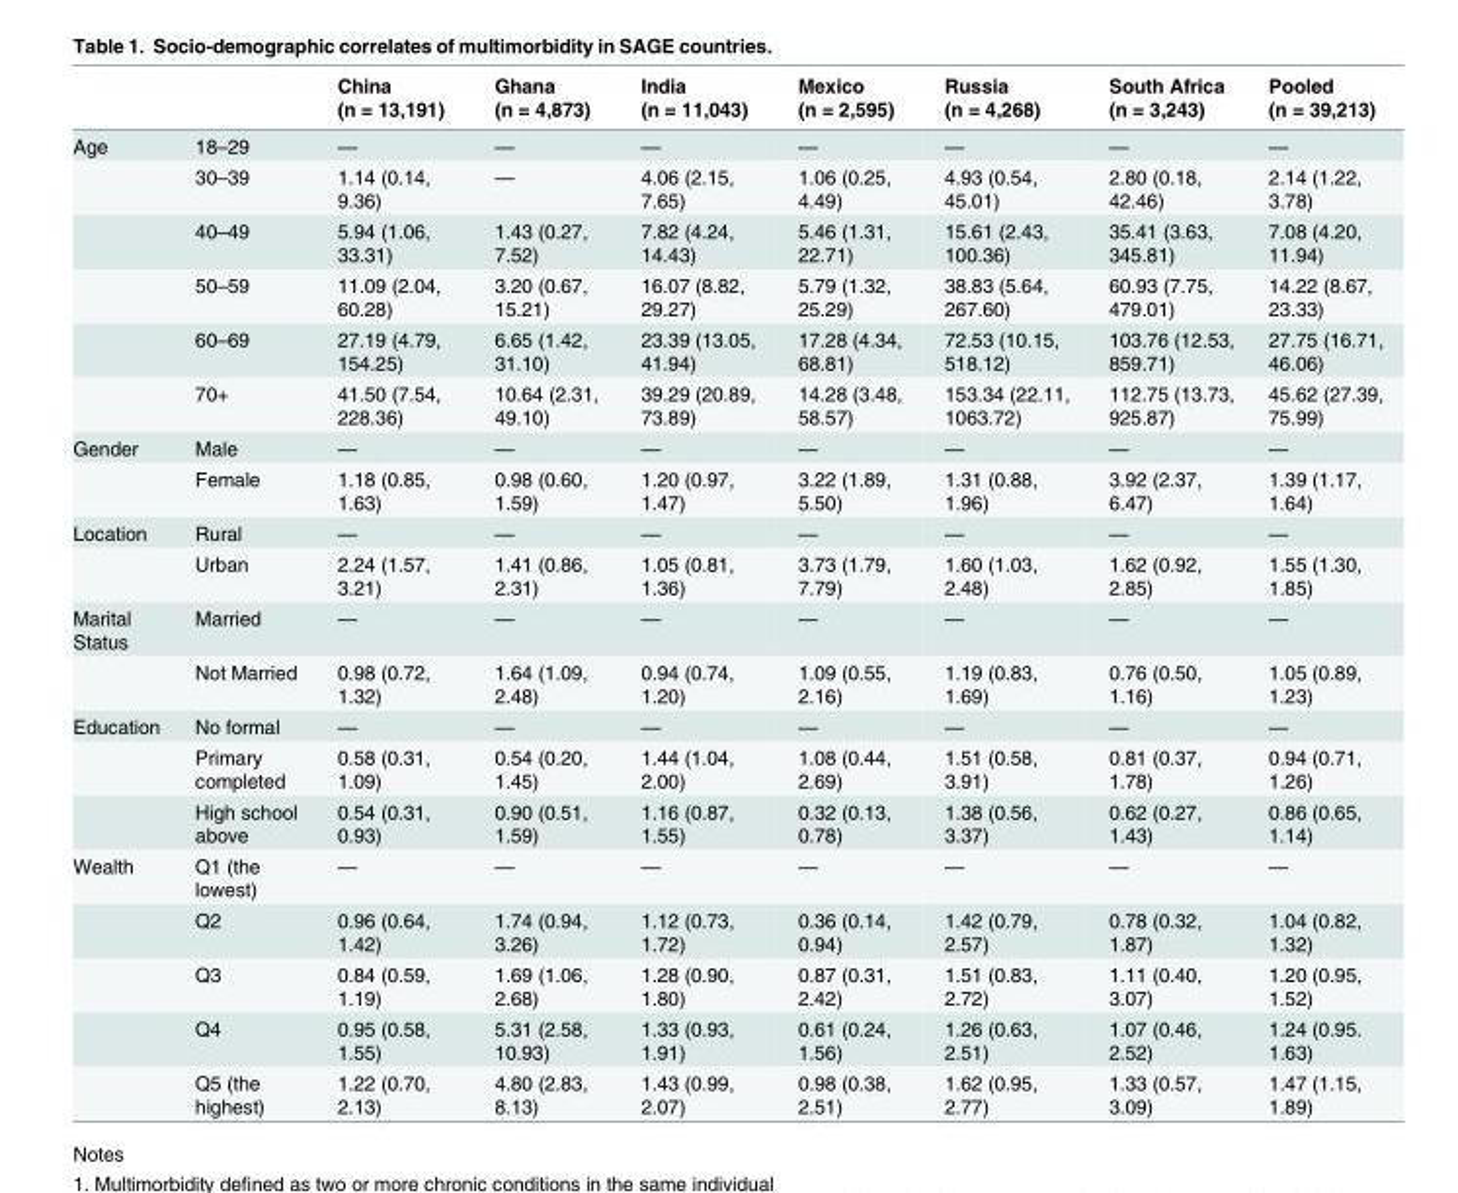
<table><thead><tr><td rowspan="2"></td><td rowspan="2"></td><td rowspan="2">China (n = 13,191)</td><td rowspan="2">Ghana (n = 4,873)</td><td rowspan="2">India (n = 11,043)</td><td rowspan="2">Mexico (n = 2,595)</td><td rowspan="2">Russia (n = 4,268)</td><td rowspan="2">South Africa (n = 3,243)</td><td rowspan="2">Pooled (n = 39,213)</td></tr><tr></tr></thead><tbody><tr><td rowspan="6">Age</td><td>18–29</td><td>—</td><td>—</td><td>—</td><td>—</td><td>—</td><td>—</td><td>—</td></tr><tr><td>30–39</td><td>1.14 (0.14, 9.36)</td><td>—</td><td>4.06 (2.15, 7.65)</td><td>1.06 (0.25, 4.49)</td><td>4.93 (0.54, 45.01)</td><td>2.80 (0.18, 42.46)</td><td>2.14 (1.22, 3.78)</td></tr><tr><td>40–49</td><td>5.94 (1.06, 33.31)</td><td>1.43 (0.27, 7.52)</td><td>7.82 (4.24, 14.43)</td><td>5.46 (1.31, 22.71)</td><td>15.61 (2.43, 100.36)</td><td>35.41 (3.63, 345.81)</td><td>7.08 (4.20, 11.94)</td></tr><tr><td>50–59</td><td>11.09 (2.04, 60.28)</td><td>3.20 (0.67, 15.21)</td><td>16.07 (8.82, 29.27)</td><td>5.79 (1.32, 25.29)</td><td>38.83 (5.64, 267.60)</td><td>60.93 (7.75, 479.01)</td><td>14.22 (8.67, 23.33)</td></tr><tr><td>60–69</td><td>27.19 (4.79, 154.25)</td><td>6.65 (1.42, 31.10)</td><td>23.39 (13.05, 41.94)</td><td>17.28 (4.34, 68.81)</td><td>72.53 (10.15, 518.12)</td><td>103.76 (12.53, 859.71)</td><td>27.75 (16.71, 46.06)</td></tr><tr><td>70+</td><td>41.50 (7.54, 228.36)</td><td>10.64 (2.31, 49.10)</td><td>39.29 (20.89, 73.89)</td><td>14.28 (3.48, 58.57)</td><td>153.34 (22.11, 1063.72)</td><td>112.75 (13.73, 925.87)</td><td>45.62 (27.39, 75.99)</td></tr><tr><td rowspan="2">Gender</td><td>Male</td><td>—</td><td>—</td><td>—</td><td>—</td><td>—</td><td>—</td><td>—</td></tr><tr><td>Female</td><td>1.18 (0.85, 1.63)</td><td>0.98 (0.60, 1.59)</td><td>1.20 (0.97, 1.47)</td><td>3.22 (1.89, 5.50)</td><td>1.31 (0.88, 1.96)</td><td>3.92 (2.37, 6.47)</td><td>1.39 (1.17, 1.64)</td></tr><tr><td rowspan="2">Location</td><td>Rural</td><td>—</td><td>—</td><td>—</td><td>—</td><td>—</td><td>—</td><td>—</td></tr><tr><td>Urban</td><td>2.24 (1.57, 3.21)</td><td>1.41 (0.86, 2.31)</td><td>1.05 (0.81, 1.36)</td><td>3.73 (1.79, 7.79)</td><td>1.60 (1.03, 2.48)</td><td>1.62 (0.92, 2.85)</td><td>1.55 (1.30, 1.85)</td></tr><tr><td rowspan="2">Marital Status</td><td>Married</td><td>—</td><td>—</td><td>—</td><td>—</td><td>—</td><td>—</td><td>—</td></tr><tr><td>Not Married</td><td>0.98 (0.72, 1.32)</td><td>1.64 (1.09, 2.48)</td><td>0.94 (0.74, 1.20)</td><td>1.09 (0.55, 2.16)</td><td>1.19 (0.83, 1.69)</td><td>0.76 (0.50, 1.16)</td><td>1.05 (0.89, 1.23)</td></tr><tr><td rowspan="3">Education</td><td>No formal</td><td>—</td><td>—</td><td>—</td><td>—</td><td>—</td><td>—</td><td>—</td></tr><tr><td>Primary completed</td><td>0.58 (0.31, 1.09)</td><td>0.54 (0.20, 1.45)</td><td>1.44 (1.04, 2.00)</td><td>1.08 (0.44, 2.69)</td><td>1.51 (0.58, 3.91)</td><td>0.81 (0.37, 1.78)</td><td>0.94 (0.71, 1.26)</td></tr><tr><td>High school above</td><td>0.54 (0.31, 0.93)</td><td>0.90 (0.51, 1.59)</td><td>1.16 (0.87, 1.55)</td><td>0.32 (0.13, 0.78)</td><td>1.38 (0.56, 3.37)</td><td>0.62 (0.27, 1.43)</td><td>0.86 (0.65, 1.14)</td></tr><tr><td rowspan="5">Wealth</td><td>Q1 (the lowest)</td><td>—</td><td>—</td><td>—</td><td>—</td><td>—</td><td>—</td><td>—</td></tr><tr><td>Q2</td><td>0.96 (0.64, 1.42)</td><td>1.74 (0.94, 3.26)</td><td>1.12 (0.73, 1.72)</td><td>0.36 (0.14, 0.94)</td><td>1.42 (0.79, 2.57)</td><td>0.78 (0.32, 1.87)</td><td>1.04 (0.82, 1.32)</td></tr><tr><td>Q3</td><td>0.84 (0.59, 1.19)</td><td>1.69 (1.06, 2.68)</td><td>1.28 (0.90, 1.80)</td><td>0.87 (0.31, 2.42)</td><td>1.51 (0.83, 2.72)</td><td>1.11 (0.40, 3.07)</td><td>1.20 (0.95, 1.52)</td></tr><tr><td>Q4</td><td>0.95 (0.58, 1.55)</td><td>5.31 (2.58, 10.93)</td><td>1.33 (0.93, 1.91)</td><td>0.61 (0.24, 1.56)</td><td>1.26 (0.63, 2.51)</td><td>1.07 (0.46, 2.52)</td><td>1.24 (0.95. 1.63)</td></tr><tr><td>Q5 (the highest)</td><td>1.22 (0.70, 2.13)</td><td>4.80 (2.83, 8.13)</td><td>1.43 (0.99, 2.07)</td><td>0.98 (0.38, 2.51)</td><td>1.62 (0.95, 2.77)</td><td>1.33 (0.57, 3.09)</td><td>1.47 (1.15, 1.89)</td></tr></tbody></table>